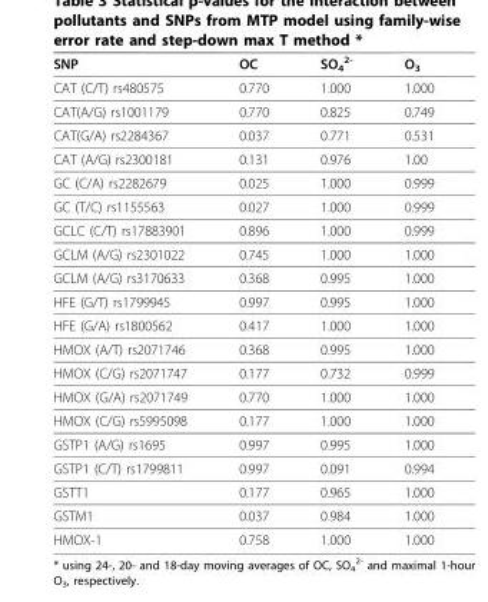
<table><thead><tr><td>SNP</td><td>OC</td><td>SO<sub>4</sub> <sup>2-</sup></td><td>O<sub>3</sub></td></tr></thead><tbody><tr><td>CAT (C/T) rs480575</td><td>0.770</td><td>1.000</td><td>1.000</td></tr><tr><td>CAT(A/G) rs1001179</td><td>0.770</td><td>0.825</td><td>0.749</td></tr><tr><td>CAT(G/A) rs2284367</td><td>0.037</td><td>0.771</td><td>0.531</td></tr><tr><td>CAT (A/G) rs2300181</td><td>0.131</td><td>0.976</td><td>1.00</td></tr><tr><td>GC (C/A) rs2282679</td><td>0.025</td><td>1.000</td><td>0.999</td></tr><tr><td>GC (T/C) rs1155563</td><td>0.027</td><td>1.000</td><td>0.999</td></tr><tr><td>GCLC (C/T) rs17883901</td><td>0.896</td><td>1.000</td><td>0.999</td></tr><tr><td>GCLM (A/G) rs2301022</td><td>0.745</td><td>1.000</td><td>1.000</td></tr><tr><td>GCLM (A/G) rs3170633</td><td>0.368</td><td>0.995</td><td>1.000</td></tr><tr><td>HFE (G/T) rs1799945</td><td>0.997</td><td>0.995</td><td>1.000</td></tr><tr><td>HFE (G/A) rs1800562</td><td>0.417</td><td>1.000</td><td>1.000</td></tr><tr><td>HMOX (A/T) rs2071746</td><td>0.368</td><td>0.995</td><td>1.000</td></tr><tr><td>HMOX (C/G) rs2071747</td><td>0.177</td><td>0.732</td><td>0.999</td></tr><tr><td>HMOX (G/A) rs2071749</td><td>0.770</td><td>1.000</td><td>1.000</td></tr><tr><td>HMOX (C/G) rs5995098</td><td>0.177</td><td>1.000</td><td>1.000</td></tr><tr><td>GSTP1 (A/G) rs1695</td><td>0.997</td><td>0.995</td><td>1.000</td></tr><tr><td>GSTP1 (C/T) rs1799811</td><td>0.997</td><td>0.091</td><td>0.994</td></tr><tr><td>GSTT1</td><td>0.177</td><td>0.965</td><td>1.000</td></tr><tr><td>GSTM1</td><td>0.037</td><td>0.984</td><td>1.000</td></tr><tr><td>HMOX-1</td><td>0.758</td><td>1.000</td><td>1.000</td></tr></tbody></table>